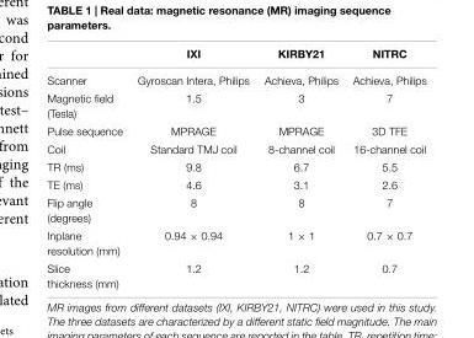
<table><thead><tr><td></td><td>IXI</td><td>KIRBY21</td><td>NITRC</td></tr></thead><tbody><tr><td>Scanner</td><td>Gyroscan Intera, Philips</td><td>Achieva, Philips</td><td>Achieva, Philips</td></tr><tr><td>Magnetic field (Tesla)</td><td>1.5</td><td>3</td><td>7</td></tr><tr><td>Pulse sequence</td><td>MPRAGE</td><td>MPRAGE</td><td>3D TFE</td></tr><tr><td>Coil</td><td>Standard TMJ coil</td><td>8-channel coil</td><td>16-channel coil</td></tr><tr><td>TR (ms)</td><td>9.8</td><td>6.7</td><td>5.5</td></tr><tr><td>TE (ms)</td><td>4.6</td><td>3.1</td><td>2.6</td></tr><tr><td>Flip angle (degrees)</td><td>8</td><td>8</td><td>7</td></tr><tr><td>Inplane resolution (mm)</td><td>0.94 × 0.94</td><td>1 × 1</td><td>0.7 × 0.7</td></tr><tr><td>Slice thickness (mm)</td><td>1.2</td><td>1.2</td><td>0.7</td></tr></tbody></table>